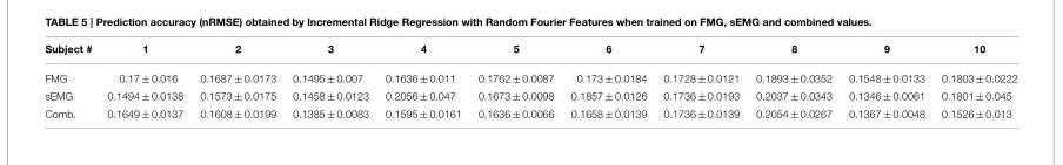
<table><thead><tr><td>Subject #</td><td>1</td><td>2</td><td>3</td><td>4</td><td>5</td><td>6</td><td>7</td><td>8</td><td>9</td><td>10</td></tr></thead><tbody><tr><td>FMG</td><td>0.17 ± 0.016</td><td>0.1687 ± 0.0173</td><td>0.1495 ± 0.007</td><td>0.1636 ± 0.011</td><td>0.1762 ± 0.0087</td><td>0.173 ± 0.0184</td><td>0.1728 ± 0.0121</td><td>0.1893 ± 0.0352</td><td>0.1548 ± 0.0133</td><td>0.1803 ± 0.0222</td></tr><tr><td>sEMG</td><td>0.1494 ± 0.0138</td><td>0.1573 ± 0.0175</td><td>0.1458 ± 0.0123</td><td>0.2056 ± 0.047</td><td>0.1673 ± 0.0098</td><td>0.1857 ± 0.0126</td><td>0.1736 ± 0.0193</td><td>0.2037 ± 0.0343</td><td>0.1346 ± 0.0061</td><td>0.1801 ± 0.045</td></tr><tr><td>Comb.</td><td>0.1649 ± 0.0137</td><td>0.1608 ± 0.0199</td><td>0.1385 ± 0.0083</td><td>0.1595 ± 0.0161</td><td>0.1636 ± 0.0066</td><td>0.1658 ± 0.0139</td><td>0.1736 ± 0.0139</td><td>0.2054 ± 0.0267</td><td>0.1367 ± 0.0048</td><td>0.1526 ± 0.013</td></tr></tbody></table>